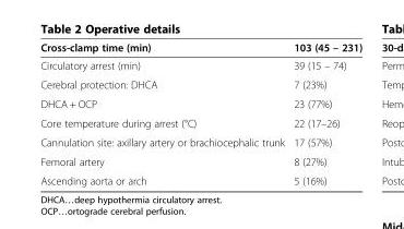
<table><thead><tr><td>Cross-clamp time (min)</td><td>103 (45 – 231)</td></tr></thead><tbody><tr><td>Circulatory arrest (min)</td><td>39 (15 – 74)</td></tr><tr><td>Cerebral protection: DHCA</td><td>7 (23%)</td></tr><tr><td>DHCA + OCP</td><td>23 (77%)</td></tr><tr><td>Core temperature during arrest (°C)</td><td>22 (17–26)</td></tr><tr><td>Cannulation site: axillary artery or brachiocephalic trunk</td><td>17 (57%)</td></tr><tr><td>Femoral artery</td><td>8 (27%)</td></tr><tr><td>Ascending aorta or arch</td><td>5 (16%)</td></tr></tbody></table>